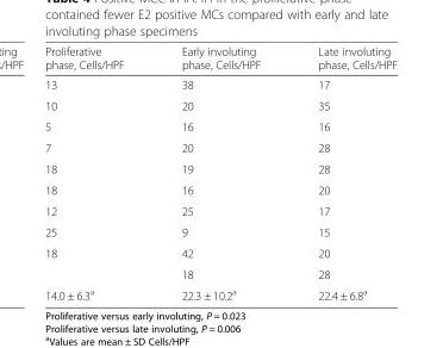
<table><thead><tr><td>Proliferative phase, Cells/HPF</td><td>Early involuting phase, Cells/HPF</td><td>Late involuting phase, Cells/HPF</td></tr></thead><tbody><tr><td>13</td><td>38</td><td>17</td></tr><tr><td>10</td><td>20</td><td>35</td></tr><tr><td>5</td><td>16</td><td>16</td></tr><tr><td>7</td><td>20</td><td>28</td></tr><tr><td>18</td><td>19</td><td>28</td></tr><tr><td>18</td><td>16</td><td>20</td></tr><tr><td>12</td><td>25</td><td>17</td></tr><tr><td>25</td><td>9</td><td>15</td></tr><tr><td rowspan="2">18</td><td>42</td><td>20</td></tr><tr><td>18</td><td>28</td></tr><tr><td>14.0 ± 6.3<sup>a</sup></td><td>22.3 ± 10.2<sup>a</sup></td><td>22.4 ± 6.8<sup>a</sup></td></tr></tbody></table>